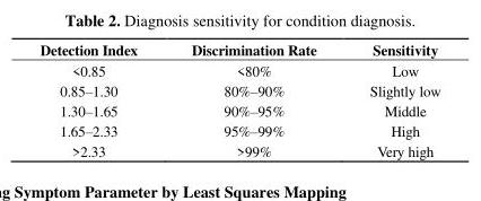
<table><thead><tr><td>Detection Index</td><td>Discrimination Rate</td><td>Sensitivity</td></tr></thead><tbody><tr><td>&lt;0.85</td><td>&lt;80%</td><td>Low</td></tr><tr><td>0.85–1.30</td><td>80%–90%</td><td>Slightly low</td></tr><tr><td>1.30–1.65</td><td>90%–95%</td><td>Middle</td></tr><tr><td>1.65–2.33</td><td>95%–99%</td><td>High</td></tr><tr><td>&gt;2.33</td><td>&gt;99%</td><td>Very high</td></tr></tbody></table>